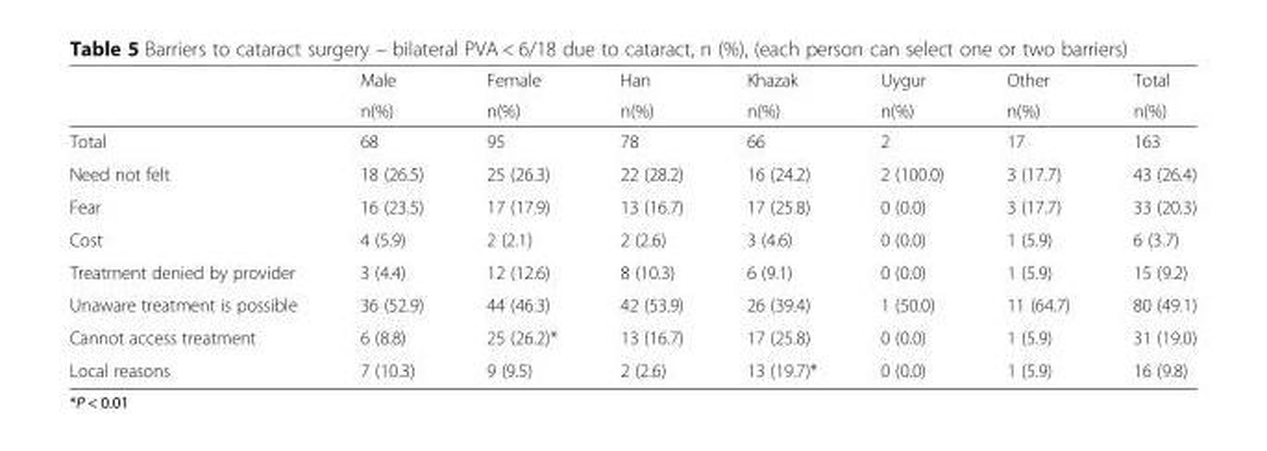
<table><thead><tr><td rowspan="2"></td><td rowspan="2">Male n(%)</td><td rowspan="2">Female n(%)</td><td rowspan="2">Han n(%)</td><td rowspan="2">Khazak n(%)</td><td rowspan="2">Uygur n(%)</td><td rowspan="2">Other n(%)</td><td rowspan="2">Total n(%)</td></tr><tr></tr></thead><tbody><tr><td>Total</td><td>68</td><td>95</td><td>78</td><td>66</td><td>2</td><td>17</td><td>163</td></tr><tr><td>Need not felt</td><td>18 (26.5)</td><td>25 (26.3)</td><td>22 (28.2)</td><td>16 (24.2)</td><td>2 (100.0)</td><td>3 (17.7)</td><td>43 (26.4)</td></tr><tr><td>Fear</td><td>16 (23.5)</td><td>17 (17.9)</td><td>13 (16.7)</td><td>17 (25.8)</td><td>0 (0.0)</td><td>3 (17.7)</td><td>33 (20.3)</td></tr><tr><td>Cost</td><td>4 (5.9)</td><td>2 (2.1)</td><td>2 (2.6)</td><td>3 (4.6)</td><td>0 (0.0)</td><td>1 (5.9)</td><td>6 (3.7)</td></tr><tr><td>Treatment denied by provider</td><td>3 (4.4)</td><td>12 (12.6)</td><td>8 (10.3)</td><td>6 (9.1)</td><td>0 (0.0)</td><td>1 (5.9)</td><td>15 (9.2)</td></tr><tr><td>Unaware treatment is possible</td><td>36 (52.9)</td><td>44 (46.3)</td><td>42 (53.9)</td><td>26 (39.4)</td><td>1 (50.0)</td><td>11 (64.7)</td><td>80 (49.1)</td></tr><tr><td>Cannot access treatment</td><td>6 (8.8)</td><td>25 (26.2)*</td><td>13 (16.7)</td><td>17 (25.8)</td><td>0 (0.0)</td><td>1 (5.9)</td><td>31 (19.0)</td></tr><tr><td>Local reasons</td><td>7 (10.3)</td><td>9 (9.5)</td><td>2 (2.6)</td><td>13 (19.7)*</td><td>0 (0.0)</td><td>1 (5.9)</td><td>16 (9.8)</td></tr></tbody></table>